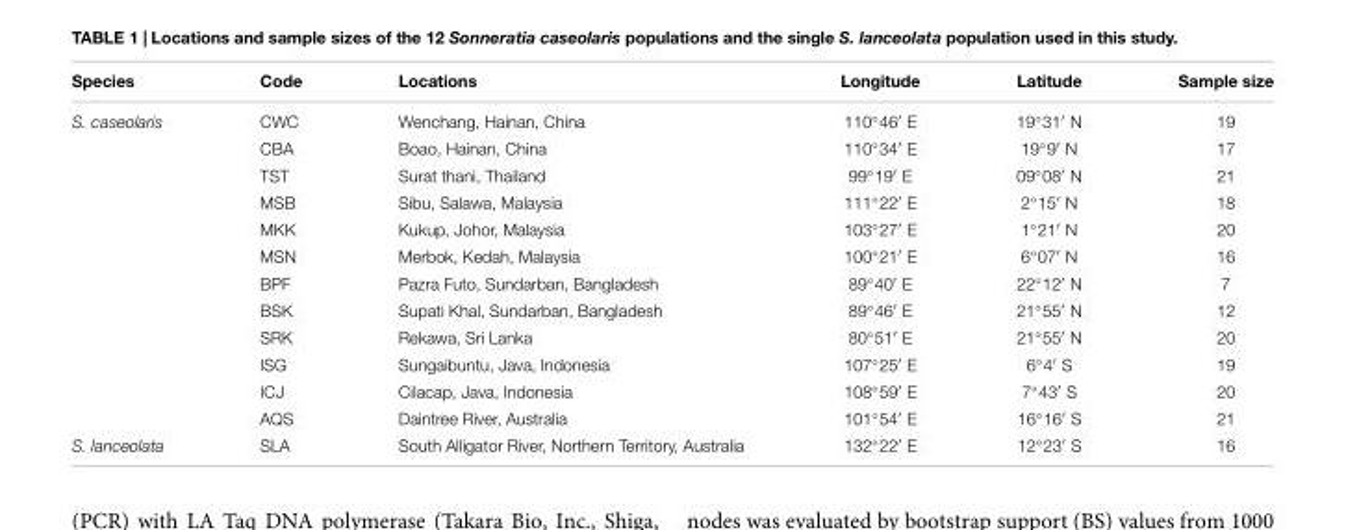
<table><thead><tr><td>Species</td><td>Code</td><td>Locations</td><td>Longitude</td><td>Latitude</td><td>Sample size</td></tr></thead><tbody><tr><td rowspan="12">S. caseolaris</td><td>CWC</td><td>Wenchang, Hainan, China</td><td>110◦46′ E</td><td>19◦31′ N</td><td>19</td></tr><tr><td>CBA</td><td>Boao, Hainan, China</td><td>110◦34′ E</td><td>19◦9′ N</td><td>17</td></tr><tr><td>TST</td><td>Surat thani, Thailand</td><td>99◦19′ E</td><td>09◦08′ N</td><td>21</td></tr><tr><td>MSB</td><td>Sibu, Salawa, Malaysia</td><td>111◦22′ E</td><td>2◦15′ N</td><td>18</td></tr><tr><td>MKK</td><td>Kukup, Johor, Malaysia</td><td>103◦27′ E</td><td>1◦21′ N</td><td>20</td></tr><tr><td>MSN</td><td>Merbok, Kedah, Malaysia</td><td>100◦21′ E</td><td>6◦07′ N</td><td>16</td></tr><tr><td>BPF</td><td>Pazra Futo, Sundarban, Bangladesh</td><td>89◦40′ E</td><td>22◦12′ N</td><td>7</td></tr><tr><td>BSK</td><td>Supati Khal, Sundarban, Bangladesh</td><td>89◦46′ E</td><td>21◦55′ N</td><td>12</td></tr><tr><td>SRK</td><td>Rekawa, Sri Lanka</td><td>80◦51′ E</td><td>21◦55′ N</td><td>20</td></tr><tr><td>ISG</td><td>Sungaibuntu, Java, Indonesia</td><td>107◦25′ E</td><td>6◦4′ S</td><td>19</td></tr><tr><td>ICJ</td><td>Cilacap, Java, Indonesia</td><td>108◦59′ E</td><td>7◦43′ S</td><td>20</td></tr><tr><td>AQS</td><td>Daintree River, Australia</td><td>101◦54′ E</td><td>16◦16′ S</td><td>21</td></tr><tr><td>S. lanceolata</td><td>SLA</td><td>South Alligator River, Northern Territory, Australia</td><td>132◦22′ E</td><td>12◦23′ S</td><td>16</td></tr></tbody></table>